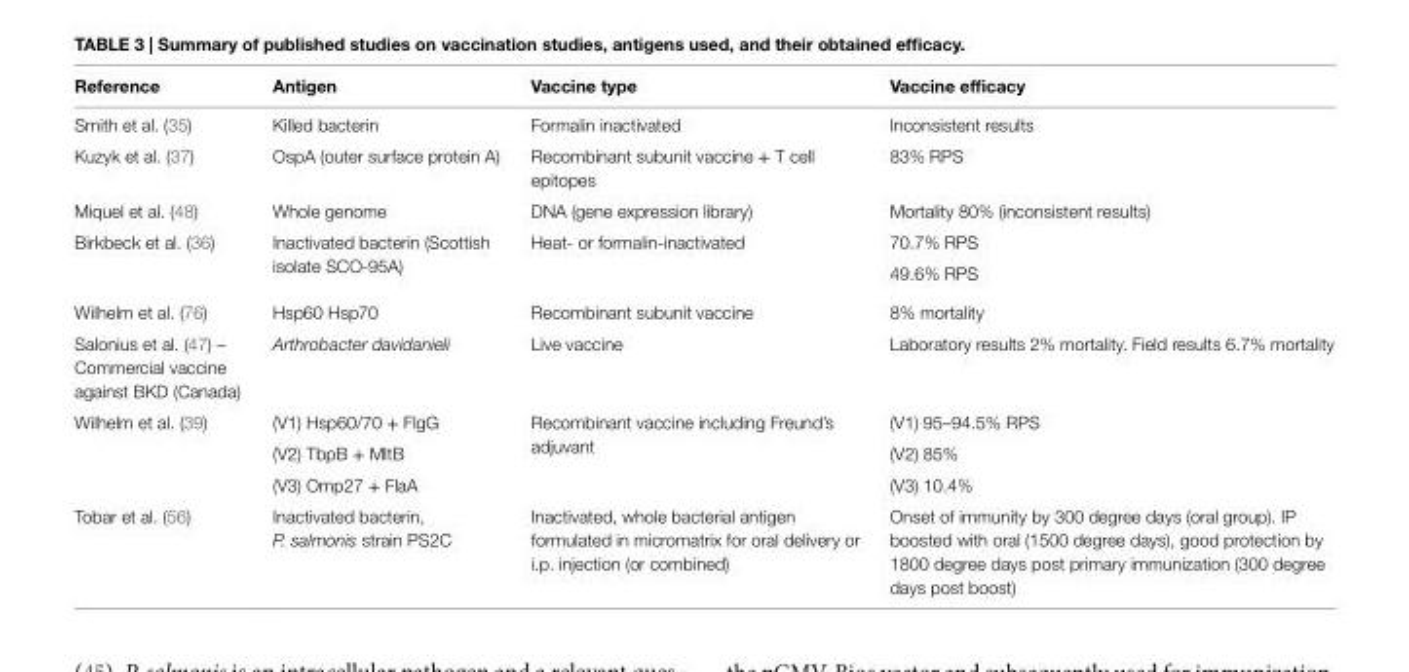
<table><thead><tr><td>Reference</td><td>Antigen</td><td>vaccine type</td><td>vaccine efficacy</td></tr></thead><tbody><tr><td>Smith et al. (35)</td><td>Killed bacterin</td><td>Formalin inactivated</td><td>Inconsistent results</td></tr><tr><td>Kuzyk et al. (37)</td><td>OspA (outer surface protein A)</td><td>Recombinant subunit vaccine + T cell epitopes</td><td>83% RPS</td></tr><tr><td>Miquel et al. (48)</td><td>Whole genome</td><td>DNA (gene expression library)</td><td>Mortality 80% (inconsistent results)</td></tr><tr><td rowspan="2">Birkbeck et al. (36)</td><td rowspan="2">Inactivated bacterin (Scottish isolate SCO-95A)</td><td rowspan="2">Heat- or formalin-inactivated</td><td>70.7% RPS</td></tr><tr><td>49.6% RPS</td></tr><tr><td>Wilhelm et al. (76)</td><td>Hsp60 Hsp70</td><td>Recombinant subunit vaccine</td><td>8% mortality</td></tr><tr><td>Salonius et al. (47) – Commercial vaccine against BKD (Canada)</td><td>Arthrobacter davidanieli</td><td>Live vaccine</td><td>Laboratory results 2% mortality. Field results 6.7% mortality</td></tr><tr><td rowspan="3">Wilhelm et al. (39)</td><td>(V1) Hsp60/70 + FlgG</td><td rowspan="3">Recombinant vaccine including Freund’s adjuvant</td><td>(V1) 95–94.5% RPS</td></tr><tr><td>(V2) TbpB + MltB</td><td>(V2) 85%</td></tr><tr><td>(V3) Omp27 + FlaA</td><td>(V3) 10.4%</td></tr><tr><td>Tobar et al. (56)</td><td>Inactivated bacterin, P. salmonis strain PS2C</td><td>Inactivated, whole bacterial antigen formulated in micromatrix for oral delivery or i.p. injection (or combined)</td><td>Onset of immunity by 300 degree days (oral group). IP boosted with oral (1500 degree days), good protection by 1800 degree days post primary immunization (300 degree days post boost)</td></tr></tbody></table>